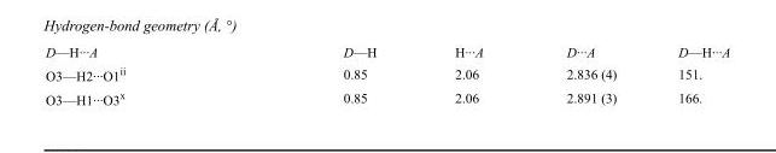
<table><tbody><tr><td>D—H···A</td><td>D—H</td><td>H···A</td><td>D···A</td><td>D—H···A</td></tr><tr><td>O3—H2···O1<sup>ii</sup></td><td>0.85</td><td>2.06</td><td>2.836 (4)</td><td>151.</td></tr><tr><td>O3—H1···O3<sup>x</sup></td><td>0.85</td><td>2.06</td><td>2.891 (3)</td><td>166.</td></tr></tbody></table>